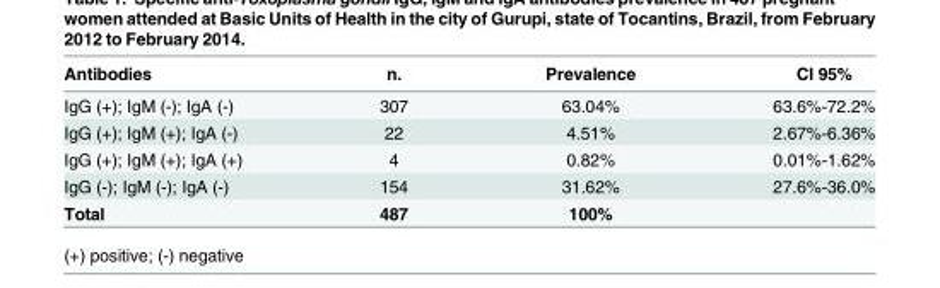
<table><thead><tr><td>Antibodies</td><td>n.</td><td>Prevalence</td><td>CI 95%</td></tr></thead><tbody><tr><td>IgG (+); IgM (-); IgA (-)</td><td>307</td><td>63.04%</td><td>63.6%-72.2%</td></tr><tr><td>IgG (+); IgM (+); IgA (-)</td><td>22</td><td>4.51%</td><td>2.67%-6.36%</td></tr><tr><td>IgG (+); IgM (+); IgA (+)</td><td>4</td><td>0.82%</td><td>0.01%-1.62%</td></tr><tr><td>IgG (-); IgM (-); IgA (-)</td><td>154</td><td>31.62%</td><td>27.6%-36.0%</td></tr><tr><td>Total</td><td>487</td><td>100%</td><td></td></tr></tbody></table>